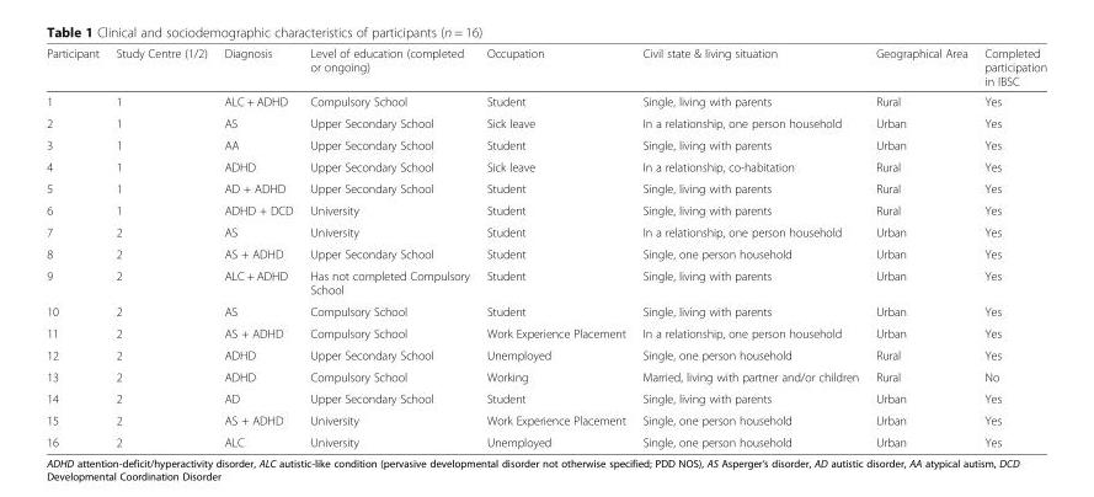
<table><thead><tr><td>Participant</td><td>Study Centre (1/2)</td><td>Diagnosis</td><td>Level of education (completed or ongoing)</td><td>Occupation</td><td>Civil state &amp; living situation</td><td>Geographical Area</td><td>Completed participation in IBSC</td></tr></thead><tbody><tr><td>1</td><td>1</td><td>ALC + ADHD</td><td>Compulsory School</td><td>Student</td><td>Single, living with parents</td><td>Rural</td><td>Yes</td></tr><tr><td>2</td><td>1</td><td>AS</td><td>Upper Secondary School</td><td>Sick leave</td><td>In a relationship, one person household</td><td>Urban</td><td>Yes</td></tr><tr><td>3</td><td>1</td><td>AA</td><td>Upper Secondary School</td><td>Student</td><td>Single, living with parents</td><td>Urban</td><td>Yes</td></tr><tr><td>4</td><td>1</td><td>ADHD</td><td>Upper Secondary School</td><td>Sick leave</td><td>In a relationship, co-habitation</td><td>Rural</td><td>Yes</td></tr><tr><td>5</td><td>1</td><td>AD + ADHD</td><td>Upper Secondary School</td><td>Student</td><td>Single, living with parents</td><td>Rural</td><td>Yes</td></tr><tr><td>6</td><td>1</td><td>ADHD + DCD</td><td>University</td><td>Student</td><td>Single, living with parents</td><td>Rural</td><td>Yes</td></tr><tr><td>7</td><td>2</td><td>AS</td><td>University</td><td>Student</td><td>In a relationship, one person household</td><td>Urban</td><td>Yes</td></tr><tr><td>8</td><td>2</td><td>AS + ADHD</td><td>Upper Secondary School</td><td>Student</td><td>Single, one person household</td><td>Urban</td><td>Yes</td></tr><tr><td>9</td><td>2</td><td>ALC + ADHD</td><td>Has not completed Compulsory School</td><td>Student</td><td>Single, living with parents</td><td>Urban</td><td>Yes</td></tr><tr><td>10</td><td>2</td><td>AS</td><td>Compulsory School</td><td>Student</td><td>Single, living with parents</td><td>Urban</td><td>Yes</td></tr><tr><td>11</td><td>2</td><td>AS + ADHD</td><td>Compulsory School</td><td>Work Experience Placement</td><td>In a relationship, one person household</td><td>Urban</td><td>Yes</td></tr><tr><td>12</td><td>2</td><td>ADHD</td><td>Upper Secondary School</td><td>Unemployed</td><td>Single, one person household</td><td>Rural</td><td>Yes</td></tr><tr><td>13</td><td>2</td><td>ADHD</td><td>Compulsory School</td><td>Working</td><td>Married, living with partner and/or children</td><td>Rural</td><td>No</td></tr><tr><td>14</td><td>2</td><td>AD</td><td>Upper Secondary School</td><td>Student</td><td>Single, living with parents</td><td>Urban</td><td>Yes</td></tr><tr><td>15</td><td>2</td><td>AS + ADHD</td><td>University</td><td>Work Experience Placement</td><td>Single, one person household</td><td>Urban</td><td>Yes</td></tr><tr><td>16</td><td>2</td><td>ALC</td><td>University</td><td>Unemployed</td><td>Single, one person household</td><td>Urban</td><td>Yes</td></tr></tbody></table>